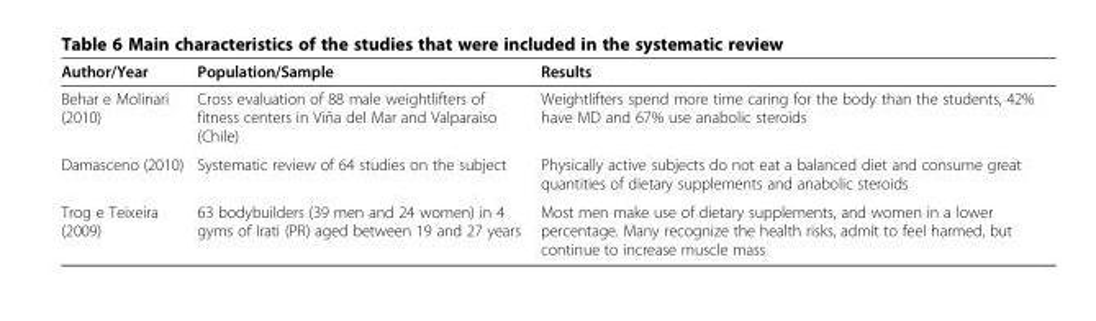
<table><thead><tr><td>Author/Year</td><td>Population/Sample</td><td>Results</td></tr></thead><tbody><tr><td>Behar e Molinari (2010)</td><td>Cross evaluation of 88 male weightlifters of fitness centers in Viña del Mar and Valparaiso (Chile)</td><td>Weightlifters spend more time caring for the body than the students, 42% have MD and 67% use anabolic steroids</td></tr><tr><td>Damasceno (2010)</td><td>Systematic review of 64 studies on the subject</td><td>Physically active subjects do not eat a balanced diet and consume great quantities of dietary supplements and anabolic steroids</td></tr><tr><td>Trog e Teixeira (2009)</td><td>63 bodybuilders (39 men and 24 women) in 4 gyms of Irati (PR) aged between 19 and 27 years</td><td>Most men make use of dietary supplements, and women in a lower percentage. Many recognize the health risks, admit to feel harmed, but continue to increase muscle mass</td></tr></tbody></table>